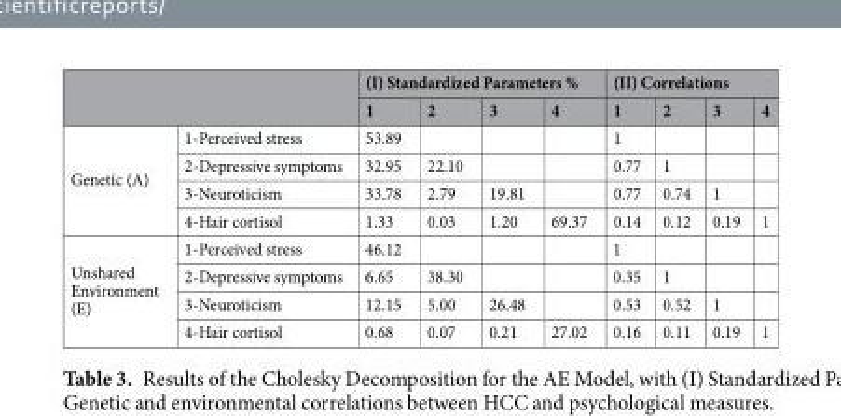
<table><thead><tr><td rowspan="2"></td><td rowspan="2"></td><td colspan="4">(I) Standardized Parameters %</td><td colspan="4">(II) Correlations</td></tr><tr><td>1</td><td>2</td><td>3</td><td>4</td><td>1</td><td>2</td><td>3</td><td>4</td></tr></thead><tbody><tr><td rowspan="4">Genetic (A)</td><td>1-Perceived stress</td><td>53.89</td><td></td><td></td><td></td><td>1</td><td></td><td></td><td></td></tr><tr><td>2-Depressive symptoms</td><td>32.95</td><td>22.10</td><td></td><td></td><td>0.77</td><td>1</td><td></td><td></td></tr><tr><td>3-Neuroticism</td><td>33.78</td><td>2.79</td><td>19.81</td><td></td><td>0.77</td><td>0.74</td><td>1</td><td></td></tr><tr><td>4-Hair cortisol</td><td>1.33</td><td>0.03</td><td>1.20</td><td>69.37</td><td>0.14</td><td>0.12</td><td>0.19</td><td>1</td></tr><tr><td rowspan="4">Unshared Environment (E)</td><td>1-Perceived stress</td><td>46.12</td><td></td><td></td><td></td><td>1</td><td></td><td></td><td></td></tr><tr><td>2-Depressive symptoms</td><td>6.65</td><td>38.30</td><td></td><td></td><td>0.35</td><td>1</td><td></td><td></td></tr><tr><td>3-Neuroticism</td><td>12.15</td><td>5.00</td><td>26.48</td><td></td><td>0.53</td><td>0.52</td><td>1</td><td></td></tr><tr><td>4-Hair cortisol</td><td>0.68</td><td>0.07</td><td>0.21</td><td>27.02</td><td>0.16</td><td>0.11</td><td>0.19</td><td>1</td></tr></tbody></table>